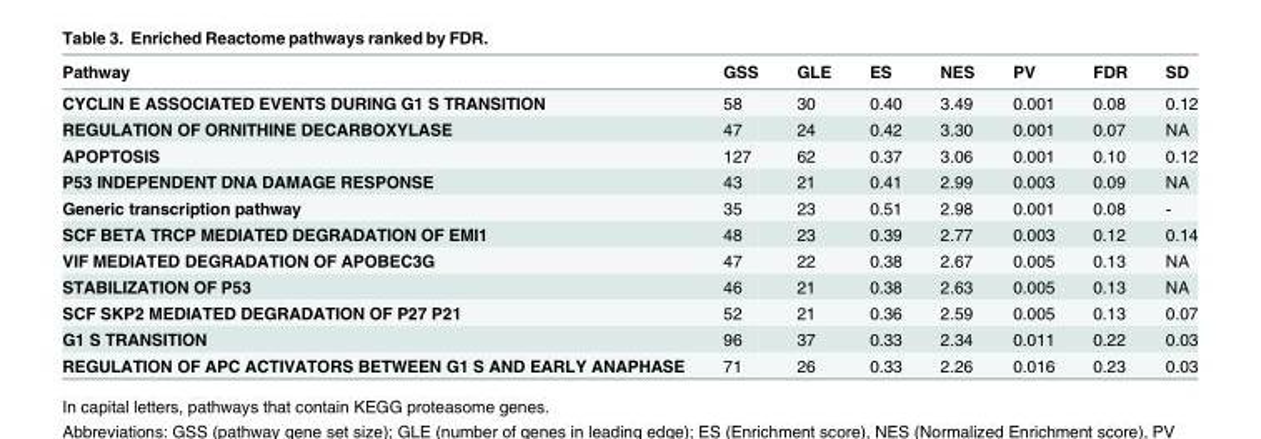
<table><thead><tr><td>Pathway</td><td>GSS</td><td>GLE</td><td>ES</td><td>NES</td><td>PV</td><td>FDR</td><td>SD</td></tr></thead><tbody><tr><td>CYCLIN E ASSOCIATED EVENTS DURING G1 S TRANSITION</td><td>58</td><td>30</td><td>0.40</td><td>3.49</td><td>0.001</td><td>0.08</td><td>0.12</td></tr><tr><td>REGULATION OF ORNITHINE DECARBOXYLASE</td><td>47</td><td>24</td><td>0.42</td><td>3.30</td><td>0.001</td><td>0.07</td><td>NA</td></tr><tr><td>APOPTOSIS</td><td>127</td><td>62</td><td>0.37</td><td>3.06</td><td>0.001</td><td>0.10</td><td>0.12</td></tr><tr><td>P53 INDEPENDENT DNA DAMAGE RESPONSE</td><td>43</td><td>21</td><td>0.41</td><td>2.99</td><td>0.003</td><td>0.09</td><td>NA</td></tr><tr><td>Generic transcription pathway</td><td>35</td><td>23</td><td>0.51</td><td>2.98</td><td>0.001</td><td>0.08</td><td>-</td></tr><tr><td>SCF BETA TRCP MEDIATED DEGRADATION OF EMI1</td><td>48</td><td>23</td><td>0.39</td><td>2.77</td><td>0.003</td><td>0.12</td><td>0.14</td></tr><tr><td>VIF MEDIATED DEGRADATION OF APOBEC3G</td><td>47</td><td>22</td><td>0.38</td><td>2.67</td><td>0.005</td><td>0.13</td><td>NA</td></tr><tr><td>STABILIZATION OF P53</td><td>46</td><td>21</td><td>0.38</td><td>2.63</td><td>0.005</td><td>0.13</td><td>NA</td></tr><tr><td>SCF SKP2 MEDIATED DEGRADATION OF P27 P21</td><td>52</td><td>21</td><td>0.36</td><td>2.59</td><td>0.005</td><td>0.13</td><td>0.07</td></tr><tr><td>G1 S TRANSITION</td><td>96</td><td>37</td><td>0.33</td><td>2.34</td><td>0.011</td><td>0.22</td><td>0.03</td></tr><tr><td>REGULATION OF APC ACTIVATORS BETWEEN G1 S AND EARLY ANAPHASE</td><td>71</td><td>26</td><td>0.33</td><td>2.26</td><td>0.016</td><td>0.23</td><td>0.03</td></tr></tbody></table>